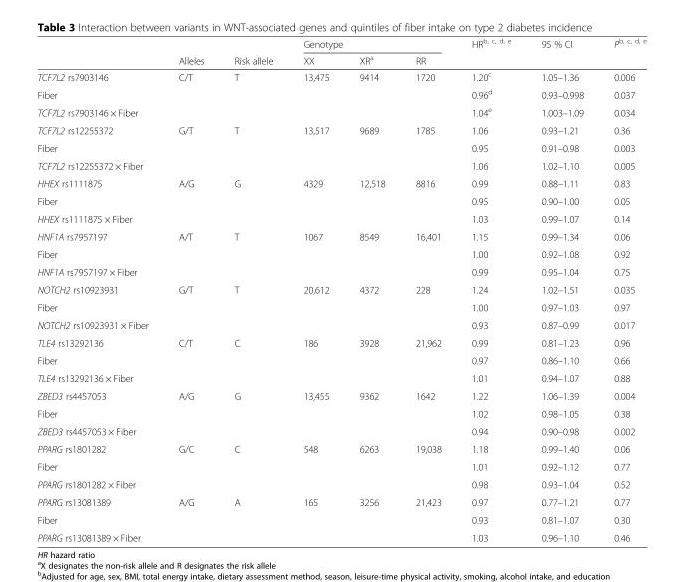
<table><thead><tr><td rowspan="2"></td><td rowspan="2">Alleles</td><td rowspan="2">Risk allele</td><td colspan="3">Genotype</td><td rowspan="2">HR<sup>b, c, d, e</sup></td><td rowspan="2">95 % CI</td><td rowspan="2">P<sup>b, c, d, e</sup></td></tr><tr><td>XX</td><td>XR<sup>a</sup></td><td>RR</td></tr></thead><tbody><tr><td>TCF7L2 rs7903146</td><td>C/T</td><td>T</td><td>13,475</td><td>9414</td><td>1720</td><td>1.20<sup>c</sup></td><td>1.05–1.36</td><td>0.006</td></tr><tr><td>Fiber</td><td></td><td></td><td></td><td></td><td></td><td>0.96<sup>d</sup></td><td>0.93–0.998</td><td>0.037</td></tr><tr><td>TCF7L2 rs7903146 × Fiber</td><td></td><td></td><td></td><td></td><td></td><td>1.04<sup>e</sup></td><td>1.003–1.09</td><td>0.034</td></tr><tr><td>TCF7L2 rs12255372</td><td>G/T</td><td>T</td><td>13,517</td><td>9689</td><td>1785</td><td>1.06</td><td>0.93–1.21</td><td>0.36</td></tr><tr><td>Fiber</td><td></td><td></td><td></td><td></td><td></td><td>0.95</td><td>0.91–0.98</td><td>0.003</td></tr><tr><td>TCF7L2 rs12255372 × Fiber</td><td></td><td></td><td></td><td></td><td></td><td>1.06</td><td>1.02–1.10</td><td>0.005</td></tr><tr><td>HHEX rs1111875</td><td>A/G</td><td>G</td><td>4329</td><td>12,518</td><td>8816</td><td>0.99</td><td>0.88–1.11</td><td>0.83</td></tr><tr><td>Fiber</td><td></td><td></td><td></td><td></td><td></td><td>0.95</td><td>0.90–1.00</td><td>0.05</td></tr><tr><td>HHEX rs1111875 × Fiber</td><td></td><td></td><td></td><td></td><td></td><td>1.03</td><td>0.99–1.07</td><td>0.14</td></tr><tr><td>HNF1A rs7957197</td><td>A/T</td><td>T</td><td>1067</td><td>8549</td><td>16,401</td><td>1.15</td><td>0.99–1.34</td><td>0.06</td></tr><tr><td>Fiber</td><td></td><td></td><td></td><td></td><td></td><td>1.00</td><td>0.92–1.08</td><td>0.92</td></tr><tr><td>HNF1A rs7957197 × Fiber</td><td></td><td></td><td></td><td></td><td></td><td>0.99</td><td>0.95–1.04</td><td>0.75</td></tr><tr><td>NOTCH2 rs10923931</td><td>G/T</td><td>T</td><td>20,612</td><td>4372</td><td>228</td><td>1.24</td><td>1.02–1.51</td><td>0.035</td></tr><tr><td>Fiber</td><td></td><td></td><td></td><td></td><td></td><td>1.00</td><td>0.97–1.03</td><td>0.97</td></tr><tr><td>NOTCH2 rs10923931 × Fiber</td><td></td><td></td><td></td><td></td><td></td><td>0.93</td><td>0.87–0.99</td><td>0.017</td></tr><tr><td>TLE4 rs13292136</td><td>C/T</td><td>C</td><td>186</td><td>3928</td><td>21,962</td><td>0.99</td><td>0.81–1.23</td><td>0.96</td></tr><tr><td>Fiber</td><td></td><td></td><td></td><td></td><td></td><td>0.97</td><td>0.86–1.10</td><td>0.66</td></tr><tr><td>TLE4 rs13292136 × Fiber</td><td></td><td></td><td></td><td></td><td></td><td>1.01</td><td>0.94–1.07</td><td>0.88</td></tr><tr><td>ZBED3 rs4457053</td><td>A/G</td><td>G</td><td>13,455</td><td>9362</td><td>1642</td><td>1.22</td><td>1.06–1.39</td><td>0.004</td></tr><tr><td>Fiber</td><td></td><td></td><td></td><td></td><td></td><td>1.02</td><td>0.98–1.05</td><td>0.38</td></tr><tr><td>ZBED3 rs4457053 × Fiber</td><td></td><td></td><td></td><td></td><td></td><td>0.94</td><td>0.90–0.98</td><td>0.002</td></tr><tr><td>PPARG rs1801282</td><td>G/C</td><td>C</td><td>548</td><td>6263</td><td>19,038</td><td>1.18</td><td>0.99–1.40</td><td>0.06</td></tr><tr><td>Fiber</td><td></td><td></td><td></td><td></td><td></td><td>1.01</td><td>0.92–1.12</td><td>0.77</td></tr><tr><td>PPARG rs1801282 × Fiber</td><td></td><td></td><td></td><td></td><td></td><td>0.98</td><td>0.93–1.04</td><td>0.52</td></tr><tr><td>PPARG rs13081389</td><td>A/G</td><td>A</td><td>165</td><td>3256</td><td>21,423</td><td>0.97</td><td>0.77–1.21</td><td>0.77</td></tr><tr><td>Fiber</td><td></td><td></td><td></td><td></td><td></td><td>0.93</td><td>0.81–1.07</td><td>0.30</td></tr><tr><td>PPARG rs13081389 × Fiber</td><td></td><td></td><td></td><td></td><td></td><td>1.03</td><td>0.96–1.10</td><td>0.46</td></tr></tbody></table>